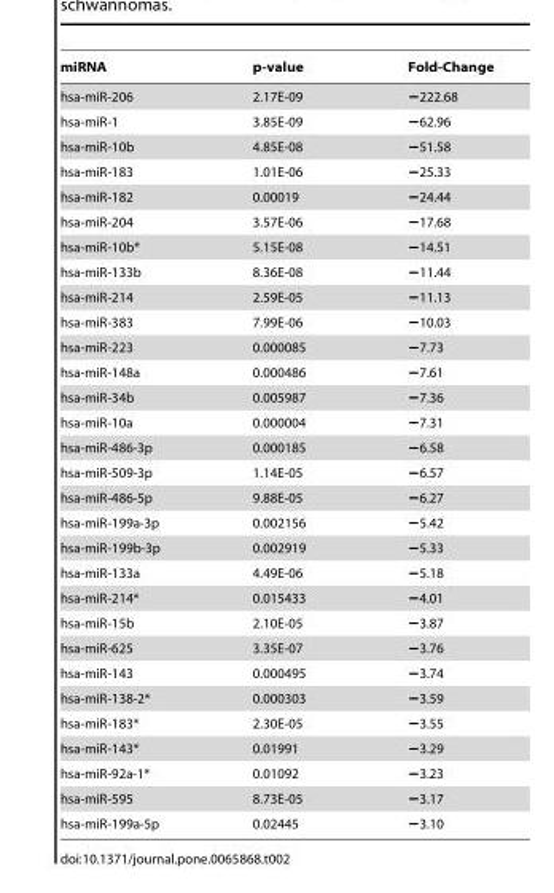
<table><thead><tr><td>miRNA</td><td>p-value</td><td>Fold-Change</td></tr></thead><tbody><tr><td>hsa-miR-206</td><td>2.17E-09</td><td>−222.68</td></tr><tr><td>hsa-miR-1</td><td>3.85E-09</td><td>−62.96</td></tr><tr><td>hsa-miR-10b</td><td>4.85E-08</td><td>−51.58</td></tr><tr><td>hsa-miR-183</td><td>1.01E-06</td><td>−25.33</td></tr><tr><td>hsa-miR-182</td><td>0.00019</td><td>−24.44</td></tr><tr><td>hsa-miR-204</td><td>3.57E-06</td><td>−17.68</td></tr><tr><td>hsa-miR-10b*</td><td>5.15E-08</td><td>−14.51</td></tr><tr><td>hsa-miR-133b</td><td>8.36E-08</td><td>−11.44</td></tr><tr><td>hsa-miR-214</td><td>2.59E-05</td><td>−11.13</td></tr><tr><td>hsa-miR-383</td><td>7.99E-06</td><td>−10.03</td></tr><tr><td>hsa-miR-223</td><td>0.000085</td><td>−7.73</td></tr><tr><td>hsa-miR-148a</td><td>0.000486</td><td>−7.61</td></tr><tr><td>hsa-miR-34b</td><td>0.005987</td><td>−7.36</td></tr><tr><td>hsa-miR-10a</td><td>0.000004</td><td>−7.31</td></tr><tr><td>hsa-miR-486-3p</td><td>0.000185</td><td>−6.58</td></tr><tr><td>hsa-miR-509-3p</td><td>1.14E-05</td><td>−6.57</td></tr><tr><td>hsa-miR-486-5p</td><td>9.88E-05</td><td>−6.27</td></tr><tr><td>hsa-miR-199a-3p</td><td>0.002156</td><td>−5.42</td></tr><tr><td>hsa-miR-199b-3p</td><td>0.002919</td><td>−5.33</td></tr><tr><td>hsa-miR-133a</td><td>4.49E-06</td><td>−5.18</td></tr><tr><td>hsa-miR-214*</td><td>0.015433</td><td>−4.01</td></tr><tr><td>hsa-miR-15b</td><td>2.10E-05</td><td>−3.87</td></tr><tr><td>hsa-miR-625</td><td>3.35E-07</td><td>−3.76</td></tr><tr><td>hsa-miR-143</td><td>0.000495</td><td>−3.74</td></tr><tr><td>hsa-miR-138-2*</td><td>0.000303</td><td>−3.59</td></tr><tr><td>hsa-miR-183*</td><td>2.30E-05</td><td>−3.55</td></tr><tr><td>hsa-miR-143*</td><td>0.01991</td><td>−3.29</td></tr><tr><td>hsa-miR-92a-1*</td><td>0.01092</td><td>−3.23</td></tr><tr><td>hsa-miR-595</td><td>8.73E-05</td><td>−3.17</td></tr><tr><td>hsa-miR-199a-5p</td><td>0.02445</td><td>−3.10</td></tr></tbody></table>